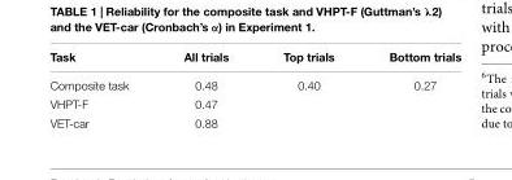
<table><thead><tr><td>Task</td><td>All trials</td><td>Top trials</td><td>Bottom trials</td></tr></thead><tbody><tr><td>Composite task</td><td>0.48</td><td>0.40</td><td>0.27</td></tr><tr><td>VHPT-F</td><td>0.47</td><td></td><td></td></tr><tr><td>VET-car</td><td>0.88</td><td></td><td></td></tr></tbody></table>